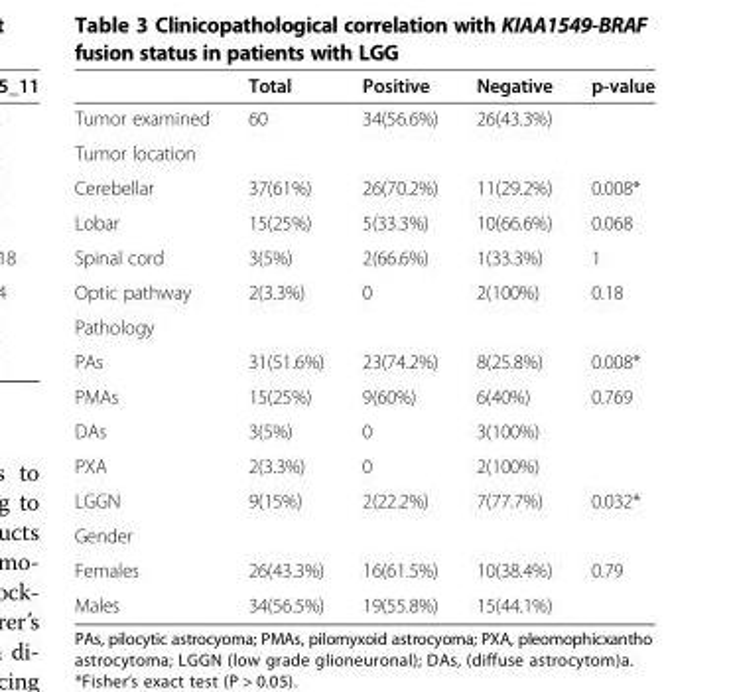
<table><thead><tr><td></td><td>Total</td><td>Positive</td><td>Negative</td><td>p-value</td></tr></thead><tbody><tr><td>Tumor examined</td><td>60</td><td>34(56.6%)</td><td>26(43.3%)</td><td></td></tr><tr><td colspan="5">Tumor location</td></tr><tr><td>Cerebellar</td><td>37(61%)</td><td>26(70.2%)</td><td>11(29.2%)</td><td>0.008*</td></tr><tr><td>Lobar</td><td>15(25%)</td><td>5(33.3%)</td><td>10(66.6%)</td><td>0.068</td></tr><tr><td>Spinal cord</td><td>3(5%)</td><td>2(66.6%)</td><td>1(33.3%)</td><td>1</td></tr><tr><td>Optic pathway</td><td>2(3.3%)</td><td>0</td><td>2(100%)</td><td>0.18</td></tr><tr><td colspan="5">Pathology</td></tr><tr><td>PAs</td><td>31(51.6%)</td><td>23(74.2%)</td><td>8(25.8%)</td><td>0.008*</td></tr><tr><td>PMAs</td><td>15(25%)</td><td>9(60%)</td><td>6(40%)</td><td>0.769</td></tr><tr><td>DAs</td><td>3(5%)</td><td>0</td><td>3(100%)</td><td></td></tr><tr><td>PXA</td><td>2(3.3%)</td><td>0</td><td>2(100%)</td><td></td></tr><tr><td>LGGN</td><td>9(15%)</td><td>2(22.2%)</td><td>7(77.7%)</td><td>0.032*</td></tr><tr><td colspan="5">Gender</td></tr><tr><td>Females</td><td>26(43.3%)</td><td>16(61.5%)</td><td>10(38.4%)</td><td>0.79</td></tr><tr><td>Males</td><td>34(56.5%)</td><td>19(55.8%)</td><td>15(44.1%)</td><td></td></tr></tbody></table>